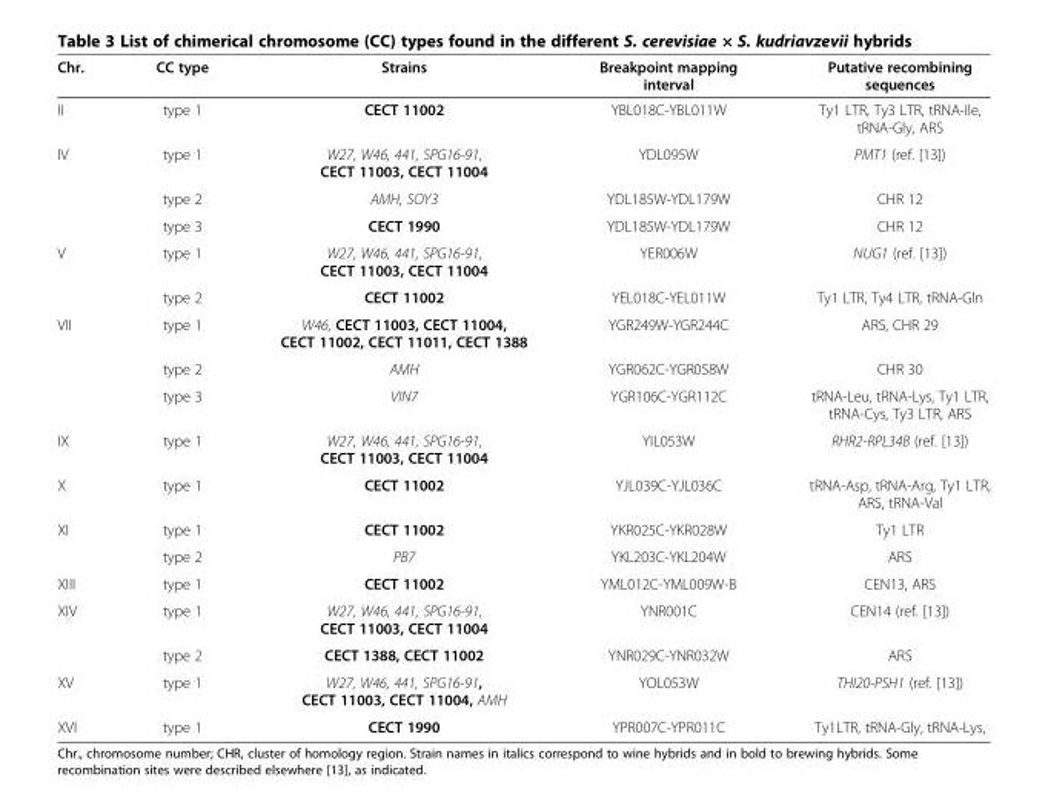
<table><thead><tr><td>Chr.</td><td>CC type</td><td>Strains</td><td>Breakpoint mapping interval</td><td>Putative recombining sequences</td></tr></thead><tbody><tr><td>II</td><td>type 1</td><td>CECT 11002</td><td>YBL018C-YBL011W</td><td>Ty1 LTR, Ty3 LTR, tRNA-Ile, tRNA-Gly, ARS</td></tr><tr><td rowspan="3">IV</td><td>type 1</td><td>W27, W46, 441, SPG16-91, CECT 11003, CECT 11004</td><td>YDL095W</td><td>PMT1 (ref. [13])</td></tr><tr><td>type 2</td><td>AMH, SOY3</td><td>YDL185W-YDL179W</td><td>CHR 12</td></tr><tr><td>type 3</td><td>CECT 1990</td><td>YDL185W-YDL179W</td><td>CHR 12</td></tr><tr><td rowspan="2">V</td><td>type 1</td><td>W27, W46, 441, SPG16-91, CECT 11003, CECT 11004</td><td>YER006W</td><td>NUG1 (ref. [13])</td></tr><tr><td>type 2</td><td>CECT 11002</td><td>YEL018C-YEL011W</td><td>Ty1 LTR, Ty4 LTR, tRNA-Gln</td></tr><tr><td rowspan="3">VII</td><td>type 1</td><td>W46, CECT 11003, CECT 11004, CECT 11002, CECT 11011, CECT 1388</td><td>YGR249W-YGR244C</td><td>ARS, CHR 29</td></tr><tr><td>type 2</td><td>AMH</td><td>YGR062C-YGR058W</td><td>CHR 30</td></tr><tr><td>type 3</td><td>VIN7</td><td>YGR106C-YGR112C</td><td>tRNA-Leu, tRNA-Lys, Ty1 LTR, tRNA-Cys, Ty3 LTR, ARS</td></tr><tr><td>IX</td><td>type 1</td><td>W27, W46, 441, SPG16-91, CECT 11003, CECT 11004</td><td>YIL053W</td><td>RHR2-RPL34B (ref. [13])</td></tr><tr><td>X</td><td>type 1</td><td>CECT 11002</td><td>YJL039C-YJL036C</td><td>tRNA-Asp, tRNA-Arg, Ty1 LTR, ARS, tRNA-Val</td></tr><tr><td rowspan="2">XI</td><td>type 1</td><td>CECT 11002</td><td>YKR025C-YKR028W</td><td>Ty1 LTR</td></tr><tr><td>type 2</td><td>PB7</td><td>YKL203C-YKL204W</td><td>ARS</td></tr><tr><td>XIII</td><td>type 1</td><td>CECT 11002</td><td>YML012C-YML009W-B</td><td>CEN13, ARS</td></tr><tr><td rowspan="2">XIV</td><td>type 1</td><td>W27, W46, 441, SPG16-91, CECT 11003, CECT 11004</td><td>YNR001C</td><td>CEN14 (ref. [13])</td></tr><tr><td>type 2</td><td>CECT 1388, CECT 11002</td><td>YNR029C-YNR032W</td><td>ARS</td></tr><tr><td>XV</td><td>type 1</td><td>W27, W46, 441, SPG16-91, CECT 11003, CECT 11004, AMH</td><td>YOL053W</td><td>THI20-PSH1 (ref. [13])</td></tr><tr><td>XVI</td><td>type 1</td><td>CECT 1990</td><td>YPR007C-YPR011C</td><td>Ty1LTR, tRNA-Gly, tRNA-Lys,</td></tr></tbody></table>